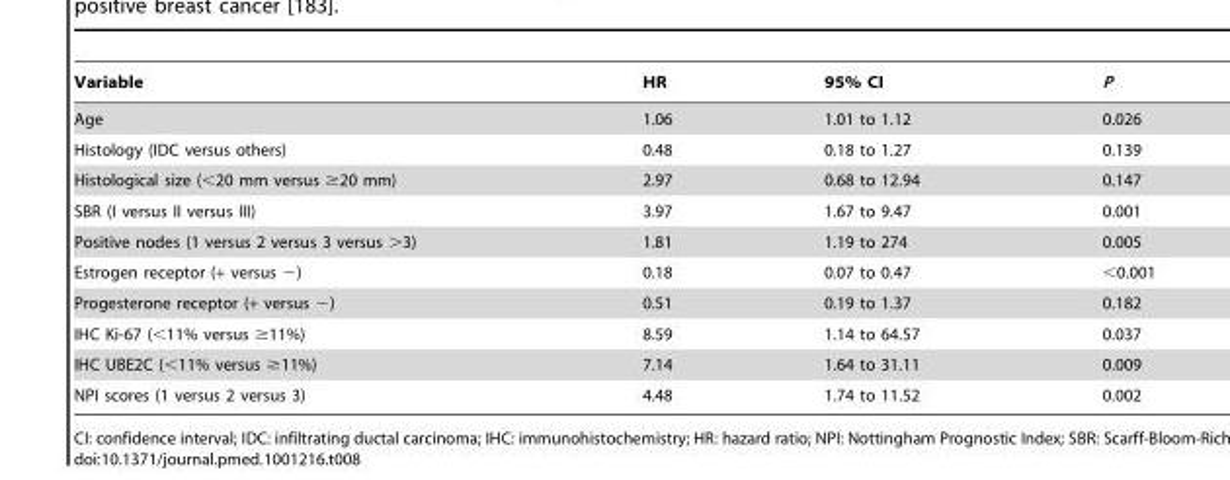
<table><thead><tr><td>Variable</td><td>HR</td><td>95% CI</td><td>P</td></tr></thead><tbody><tr><td>Age</td><td>1.06</td><td>1.01 to 1.12</td><td>0.026</td></tr><tr><td>Histology (IDC versus others)</td><td>0.48</td><td>0.18 to 1.27</td><td>0.139</td></tr><tr><td>Histological size (&lt;20 mm versus ≥20 mm)</td><td>2.97</td><td>0.68 to 12.94</td><td>0.147</td></tr><tr><td>SBR (I versus II versus III)</td><td>3.97</td><td>1.67 to 9.47</td><td>0.001</td></tr><tr><td>Positive nodes (1 versus 2 versus 3 versus &gt;3)</td><td>1.81</td><td>1.19 to 274</td><td>0.005</td></tr><tr><td>Estrogen receptor (+ versus −)</td><td>0.18</td><td>0.07 to 0.47</td><td>&lt;0.001</td></tr><tr><td>Progesterone receptor (+ versus −)</td><td>0.51</td><td>0.19 to 1.37</td><td>0.182</td></tr><tr><td>IHC Ki-67 (&lt;11% versus ≥11%)</td><td>8.59</td><td>1.14 to 64.57</td><td>0.037</td></tr><tr><td>IHC UBE2C (&lt;11% versus ≥11%)</td><td>7.14</td><td>1.64 to 31.11</td><td>0.009</td></tr><tr><td>NPI scores (1 versus 2 versus 3)</td><td>4.48</td><td>1.74 to 11.52</td><td>0.002</td></tr></tbody></table>